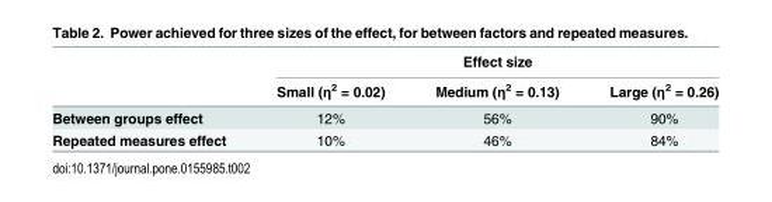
<table><thead><tr><td rowspan="2"></td><td colspan="3">Effect size</td></tr><tr><td>Small (η<sup>2</sup> = 0.02)</td><td>Medium (η<sup>2</sup> = 0.13)</td><td>Large (η<sup>2</sup> = 0.26)</td></tr></thead><tbody><tr><td>Between groups effect</td><td>12%</td><td>56%</td><td>90%</td></tr><tr><td>Repeated measures effect</td><td>10%</td><td>46%</td><td>84%</td></tr></tbody></table>